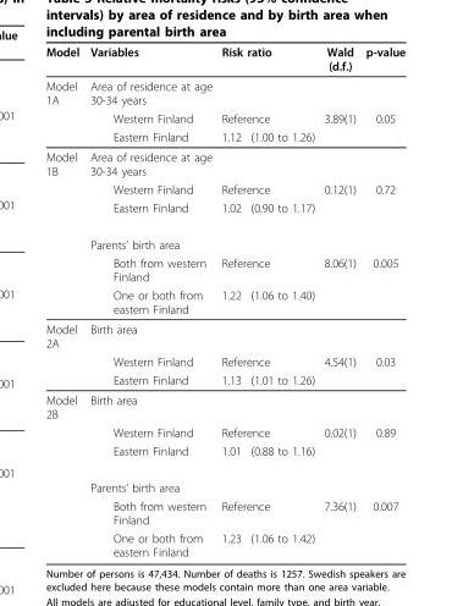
<table><thead><tr><td rowspan="2">Model Model 1A</td><td rowspan="2">Variables Area of residence at age 30-34 years</td><td colspan="2">Risk ratio</td><td rowspan="2">Wald (d.f.)</td><td rowspan="2">p-value</td></tr><tr><td></td><td></td></tr></thead><tbody><tr><td></td><td>Western Finland</td><td colspan="2">Reference</td><td>3.89(1)</td><td>0.05</td></tr><tr><td></td><td>Eastern Finland</td><td>1.12</td><td>(1.00 to 1.26)</td><td></td><td></td></tr><tr><td rowspan="6">Model 1B</td><td>Area of residence at age 30-34 years</td><td></td><td></td><td></td><td></td></tr><tr><td>Western Finland</td><td colspan="2">Reference</td><td>0.12(1)</td><td>0.72</td></tr><tr><td>Eastern Finland</td><td>1.02</td><td>(0.90 to 1.17)</td><td></td><td></td></tr><tr><td>Parents’ birth area</td><td></td><td></td><td></td><td></td></tr><tr><td>Both from western Finland</td><td colspan="2">Reference</td><td>8.06(1)</td><td>0.005</td></tr><tr><td>One or both from eastern Finland</td><td>1.22</td><td>(1.06 to 1.40)</td><td></td><td></td></tr><tr><td rowspan="3">Model 2A</td><td>Birth area</td><td></td><td></td><td></td><td></td></tr><tr><td>Western Finland</td><td colspan="2">Reference</td><td>4.54(1)</td><td>0.03</td></tr><tr><td>Eastern Finland</td><td>1.13</td><td>(1.01 to 1.26)</td><td></td><td></td></tr><tr><td rowspan="6">Model 2B</td><td>Birth area</td><td></td><td></td><td></td><td></td></tr><tr><td>Western Finland</td><td colspan="2">Reference</td><td>0.02(1)</td><td>0.89</td></tr><tr><td>Eastern Finland</td><td>1.01</td><td>(0.88 to 1.16)</td><td></td><td></td></tr><tr><td>Parents’ birth area</td><td></td><td></td><td></td><td></td></tr><tr><td>Both from western Finland</td><td colspan="2">Reference</td><td>7.36(1)</td><td>0.007</td></tr><tr><td>One or both from eastern Finland</td><td>1.23</td><td>(1.06 to 1.42)</td><td></td><td></td></tr></tbody></table>